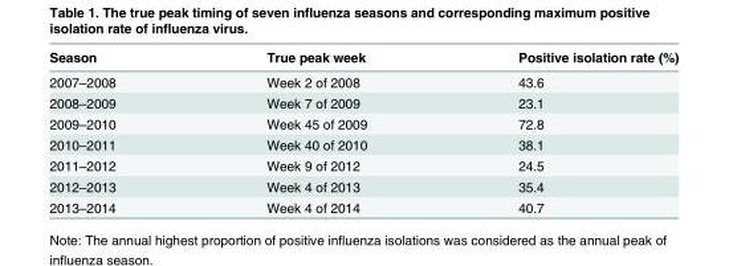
<table><thead><tr><td>Season</td><td>True peak week</td><td>Positive isolation rate (%)</td></tr></thead><tbody><tr><td>2007–2008</td><td>Week 2 of 2008</td><td>43.6</td></tr><tr><td>2008–2009</td><td>Week 7 of 2009</td><td>23.1</td></tr><tr><td>2009–2010</td><td>Week 45 of 2009</td><td>72.8</td></tr><tr><td>2010–2011</td><td>Week 40 of 2010</td><td>38.1</td></tr><tr><td>2011–2012</td><td>Week 9 of 2012</td><td>24.5</td></tr><tr><td>2012–2013</td><td>Week 4 of 2013</td><td>35.4</td></tr><tr><td>2013–2014</td><td>Week 4 of 2014</td><td>40.7</td></tr></tbody></table>